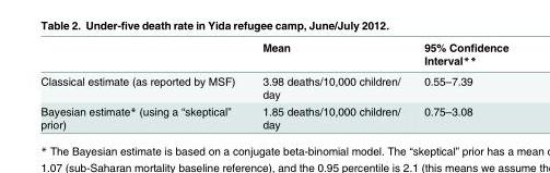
<table><thead><tr><td></td><td>Mean</td><td>95% Confidence Interval**</td></tr></thead><tbody><tr><td>Classical estimate (as reported by MSF)</td><td>3.98 deaths/10,000 children/ day</td><td>0.55–7.39</td></tr><tr><td>Bayesian estimate* (using a “skeptical” prior)</td><td>1.85 deaths/10,000 children/ day</td><td>0.75–3.08</td></tr></tbody></table>